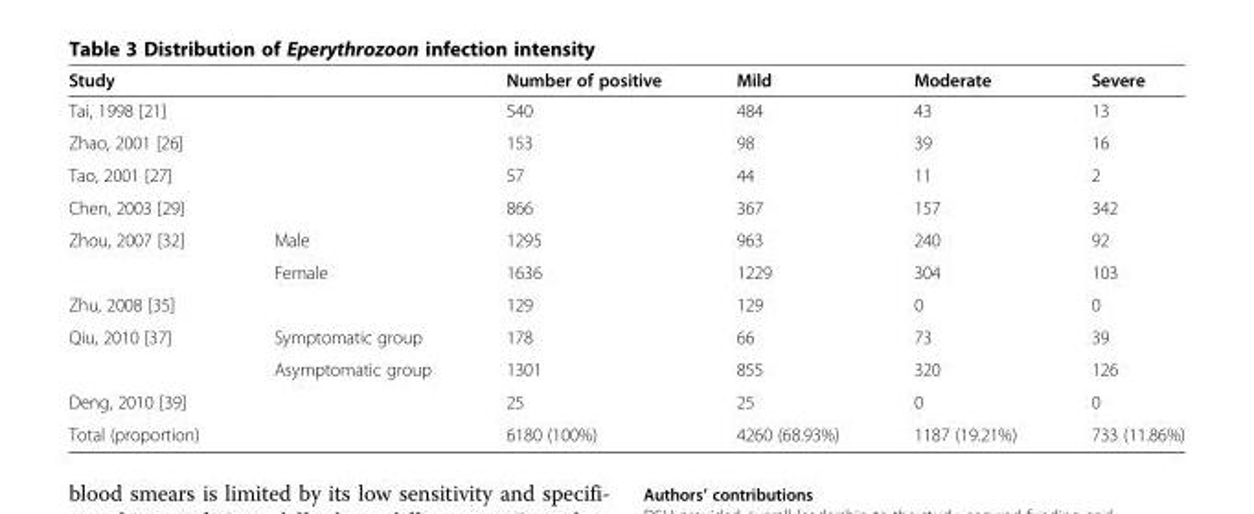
<table><thead><tr><td>Study</td><td></td><td>Number of positive</td><td>Mild</td><td>Moderate</td><td>Severe</td></tr></thead><tbody><tr><td>Tai, 1998 [21]</td><td></td><td>540</td><td>484</td><td>43</td><td>13</td></tr><tr><td>Zhao, 2001 [26]</td><td></td><td>153</td><td>98</td><td>39</td><td>16</td></tr><tr><td>Tao, 2001 [27]</td><td></td><td>57</td><td>44</td><td>11</td><td>2</td></tr><tr><td>Chen, 2003 [29]</td><td></td><td>866</td><td>367</td><td>157</td><td>342</td></tr><tr><td rowspan="2">Zhou, 2007 [32]</td><td>Male</td><td>1295</td><td>963</td><td>240</td><td>92</td></tr><tr><td>Female</td><td>1636</td><td>1229</td><td>304</td><td>103</td></tr><tr><td>Zhu, 2008 [35]</td><td></td><td>129</td><td>129</td><td>0</td><td>0</td></tr><tr><td rowspan="2">Qiu, 2010 [37]</td><td>Symptomatic group</td><td>178</td><td>66</td><td>73</td><td>39</td></tr><tr><td>Asymptomatic group</td><td>1301</td><td>855</td><td>320</td><td>126</td></tr><tr><td>Deng, 2010 [39]</td><td></td><td>25</td><td>25</td><td>0</td><td>0</td></tr><tr><td>Total (proportion)</td><td></td><td>6180 (100%)</td><td>4260 (68.93%)</td><td>1187 (19.21%)</td><td>733 (11.86%)</td></tr></tbody></table>